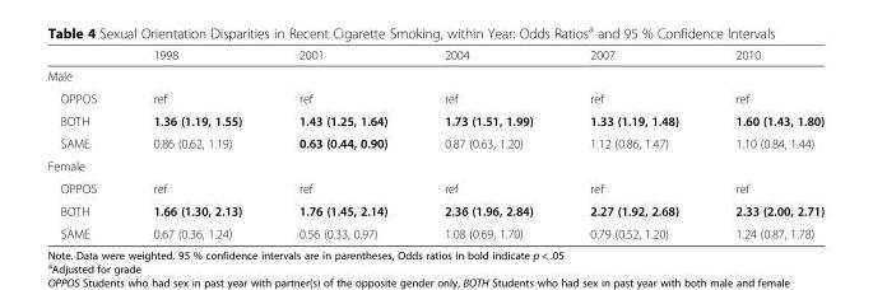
<table><thead><tr><td></td><td>1998</td><td>2001</td><td>2004</td><td>2007</td><td>2010</td></tr></thead><tbody><tr><td colspan="6">Male</td></tr><tr><td>OPPOS</td><td>ref</td><td>ref</td><td>ref</td><td>ref</td><td>ref</td></tr><tr><td>BOTH</td><td>1.36 (1.19, 1.55)</td><td>1.43 (1.25, 1.64)</td><td>1.73 (1.51, 1.99)</td><td>1.33 (1.19, 1.48)</td><td>1.60 (1.43, 1.80)</td></tr><tr><td>SAME</td><td>0.86 (0.62, 1.19)</td><td>0.63 (0.44, 0.90)</td><td>0.87 (0.63, 1.20)</td><td>1.12 (0.86, 1.47)</td><td>1.10 (0.84, 1.44)</td></tr><tr><td colspan="6">Female</td></tr><tr><td>OPPOS</td><td>ref</td><td>ref</td><td>ref</td><td>ref</td><td>ref</td></tr><tr><td>BOTH</td><td>1.66 (1.30, 2.13)</td><td>1.76 (1.45, 2.14)</td><td>2.36 (1.96, 2.84)</td><td>2.27 (1.92, 2.68)</td><td>2.33 (2.00, 2.71)</td></tr><tr><td>SAME</td><td>0.67 (0.36, 1.24)</td><td>0.56 (0.33, 0.97)</td><td>1.08 (0.69, 1.70)</td><td>0.79 (0.52, 1.20)</td><td>1.24 (0.87, 1.78)</td></tr></tbody></table>